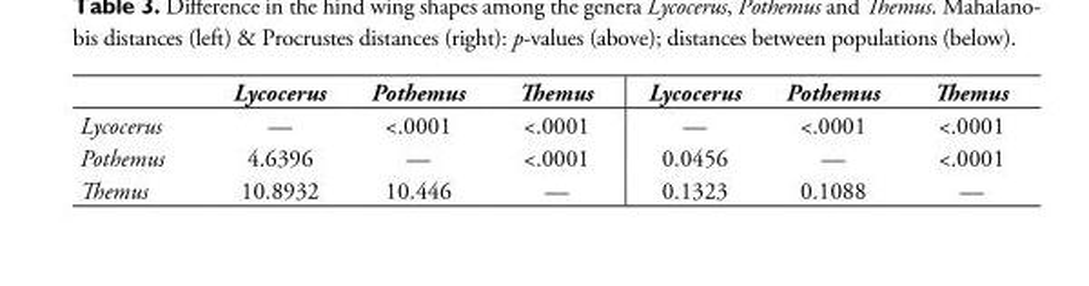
<table><thead><tr><td></td><td>Lycocerus</td><td>Pothemus</td><td>Themus</td><td>Lycocerus</td><td>Pothemus</td><td>Themus</td></tr></thead><tbody><tr><td>Lycocerus</td><td>—</td><td>&lt;.0001</td><td>&lt;.0001</td><td>—</td><td>&lt;.0001</td><td>&lt;.0001</td></tr><tr><td>Pothemus</td><td>4.6396</td><td>—</td><td>&lt;.0001</td><td>0.0456</td><td>—</td><td>&lt;.0001</td></tr><tr><td>Themus</td><td>10.8932</td><td>10.446</td><td>—</td><td>0.1323</td><td>0.1088</td><td>—</td></tr></tbody></table>